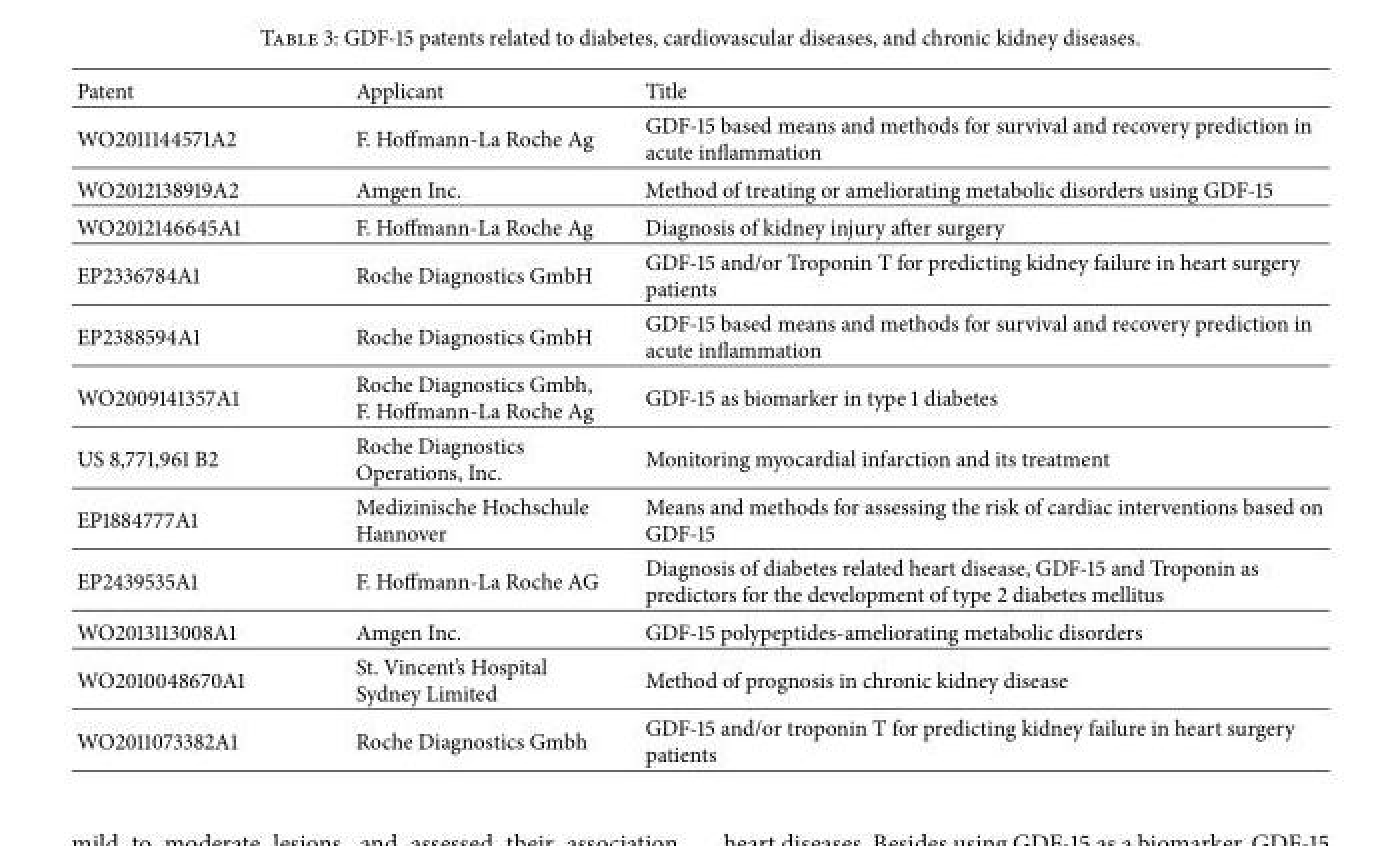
<table><thead><tr><td>Patent</td><td>Applicant</td><td>Title</td></tr></thead><tbody><tr><td>WO2011144571A2</td><td>F. Hoffmann-La Roche Ag</td><td>GDF-15 based means and methods for survival and recovery prediction in acute inflammation</td></tr><tr><td>WO2012138919A2</td><td>Amgen Inc.</td><td>Method of treating or ameliorating metabolic disorders using GDF-15</td></tr><tr><td>WO2012146645A1</td><td>F. Hoffmann-La Roche Ag</td><td>Diagnosis of kidney injury after surgery</td></tr><tr><td>EP2336784A1</td><td>Roche Diagnostics GmbH</td><td>GDF-15 and/or Troponin T for predicting kidney failure in heart surgery patients</td></tr><tr><td>EP2388594A1</td><td>Roche Diagnostics GmbH</td><td>GDF-15 based means and methods for survival and recovery prediction in acute inflammation</td></tr><tr><td>WO2009141357A1</td><td>Roche Diagnostics Gmbh, F. Hoffmann-La Roche Ag</td><td>GDF-15 as biomarker in type 1 diabetes</td></tr><tr><td>US 8,771,961 B2</td><td>Roche Diagnostics Operations, Inc.</td><td>Monitoring myocardial infarction and its treatment</td></tr><tr><td>EP1884777A1</td><td>Medizinische Hochschule Hannover</td><td>Means and methods for assessing the risk of cardiac interventions based on GDF-15</td></tr><tr><td>EP2439535A1</td><td>F. Hoffmann-La Roche AG</td><td>Diagnosis of diabetes related heart disease, GDF-15 and Troponin as predictors for the development of type 2 diabetes mellitus</td></tr><tr><td>WO2013113008A1</td><td>Amgen Inc.</td><td>GDF-15 polypeptides-ameliorating metabolic disorders</td></tr><tr><td>WO2010048670A1</td><td>St. Vincent’s Hospital Sydney Limited</td><td>Method of prognosis in chronic kidney disease</td></tr><tr><td>WO2011073382A1</td><td>Roche Diagnostics Gmbh</td><td>GDF-15 and/or troponin T for predicting kidney failure in heart surgery patients</td></tr></tbody></table>